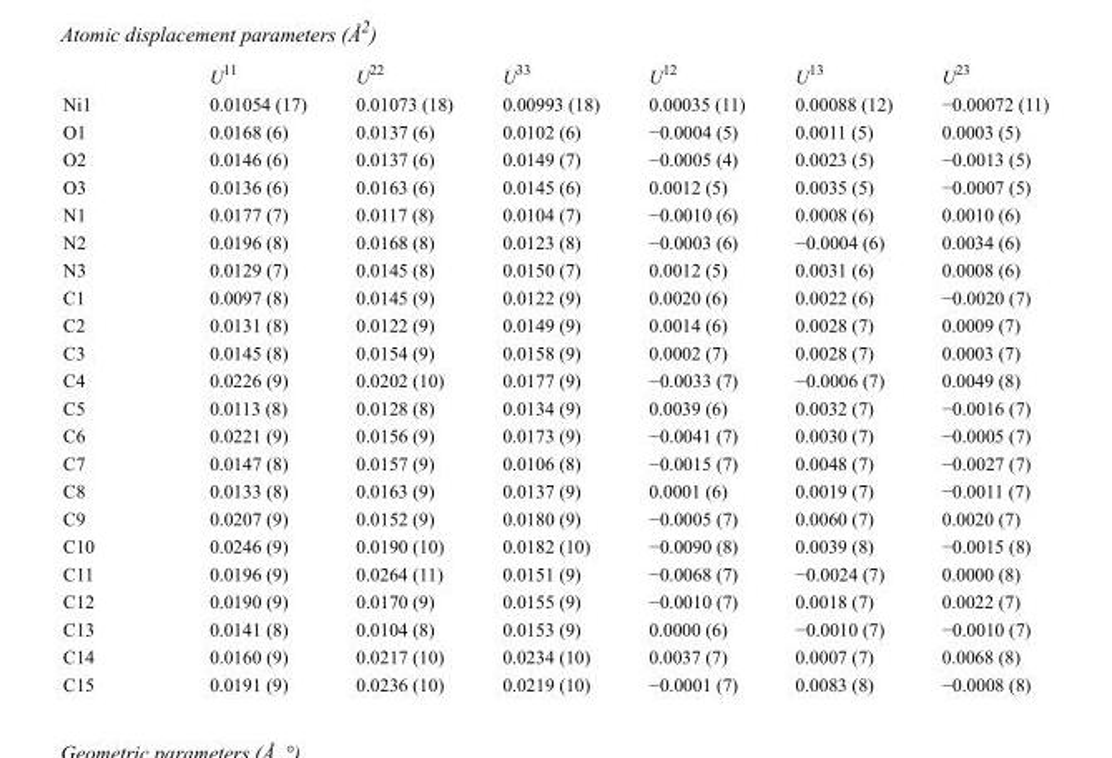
<table><thead><tr><td></td><td>U<sup>11</sup></td><td>U<sup>22</sup></td><td>U<sup>33</sup></td><td>U<sup>12</sup></td><td>U<sup>13</sup></td><td>U<sup>23</sup></td></tr></thead><tbody><tr><td>Ni1</td><td>0.01054 (17)</td><td>0.01073 (18)</td><td>0.00993 (18)</td><td>0.00035 (11)</td><td>0.00088 (12)</td><td>−0.00072 (11)</td></tr><tr><td>O1</td><td>0.0168 (6)</td><td>0.0137 (6)</td><td>0.0102 (6)</td><td>−0.0004 (5)</td><td>0.0011 (5)</td><td>0.0003 (5)</td></tr><tr><td>O2</td><td>0.0146 (6)</td><td>0.0137 (6)</td><td>0.0149 (7)</td><td>−0.0005 (4)</td><td>0.0023 (5)</td><td>−0.0013 (5)</td></tr><tr><td>O3</td><td>0.0136 (6)</td><td>0.0163 (6)</td><td>0.0145 (6)</td><td>0.0012 (5)</td><td>0.0035 (5)</td><td>−0.0007 (5)</td></tr><tr><td>N1</td><td>0.0177 (7)</td><td>0.0117 (8)</td><td>0.0104 (7)</td><td>−0.0010 (6)</td><td>0.0008 (6)</td><td>0.0010 (6)</td></tr><tr><td>N2</td><td>0.0196 (8)</td><td>0.0168 (8)</td><td>0.0123 (8)</td><td>−0.0003 (6)</td><td>−0.0004 (6)</td><td>0.0034 (6)</td></tr><tr><td>N3</td><td>0.0129 (7)</td><td>0.0145 (8)</td><td>0.0150 (7)</td><td>0.0012 (5)</td><td>0.0031 (6)</td><td>0.0008 (6)</td></tr><tr><td>C1</td><td>0.0097 (8)</td><td>0.0145 (9)</td><td>0.0122 (9)</td><td>0.0020 (6)</td><td>0.0022 (6)</td><td>−0.0020 (7)</td></tr><tr><td>C2</td><td>0.0131 (8)</td><td>0.0122 (9)</td><td>0.0149 (9)</td><td>0.0014 (6)</td><td>0.0028 (7)</td><td>0.0009 (7)</td></tr><tr><td>C3</td><td>0.0145 (8)</td><td>0.0154 (9)</td><td>0.0158 (9)</td><td>0.0002 (7)</td><td>0.0028 (7)</td><td>0.0003 (7)</td></tr><tr><td>C4</td><td>0.0226 (9)</td><td>0.0202 (10)</td><td>0.0177 (9)</td><td>−0.0033 (7)</td><td>−0.0006 (7)</td><td>0.0049 (8)</td></tr><tr><td>C5</td><td>0.0113 (8)</td><td>0.0128 (8)</td><td>0.0134 (9)</td><td>0.0039 (6)</td><td>0.0032 (7)</td><td>−0.0016 (7)</td></tr><tr><td>C6</td><td>0.0221 (9)</td><td>0.0156 (9)</td><td>0.0173 (9)</td><td>−0.0041 (7)</td><td>0.0030 (7)</td><td>−0.0005 (7)</td></tr><tr><td>C7</td><td>0.0147 (8)</td><td>0.0157 (9)</td><td>0.0106 (8)</td><td>−0.0015 (7)</td><td>0.0048 (7)</td><td>−0.0027 (7)</td></tr><tr><td>C8</td><td>0.0133 (8)</td><td>0.0163 (9)</td><td>0.0137 (9)</td><td>0.0001 (6)</td><td>0.0019 (7)</td><td>−0.0011 (7)</td></tr><tr><td>C9</td><td>0.0207 (9)</td><td>0.0152 (9)</td><td>0.0180 (9)</td><td>−0.0005 (7)</td><td>0.0060 (7)</td><td>0.0020 (7)</td></tr><tr><td>C10</td><td>0.0246 (9)</td><td>0.0190 (10)</td><td>0.0182 (10)</td><td>−0.0090 (8)</td><td>0.0039 (8)</td><td>−0.0015 (8)</td></tr><tr><td>C11</td><td>0.0196 (9)</td><td>0.0264 (11)</td><td>0.0151 (9)</td><td>−0.0068 (7)</td><td>−0.0024 (7)</td><td>0.0000 (8)</td></tr><tr><td>C12</td><td>0.0190 (9)</td><td>0.0170 (9)</td><td>0.0155 (9)</td><td>−0.0010 (7)</td><td>0.0018 (7)</td><td>0.0022 (7)</td></tr><tr><td>C13</td><td>0.0141 (8)</td><td>0.0104 (8)</td><td>0.0153 (9)</td><td>0.0000 (6)</td><td>−0.0010 (7)</td><td>−0.0010 (7)</td></tr><tr><td>C14</td><td>0.0160 (9)</td><td>0.0217 (10)</td><td>0.0234 (10)</td><td>0.0037 (7)</td><td>0.0007 (7)</td><td>0.0068 (8)</td></tr><tr><td>C15</td><td>0.0191 (9)</td><td>0.0236 (10)</td><td>0.0219 (10)</td><td>−0.0001 (7)</td><td>0.0083 (8)</td><td>−0.0008 (8)</td></tr></tbody></table>